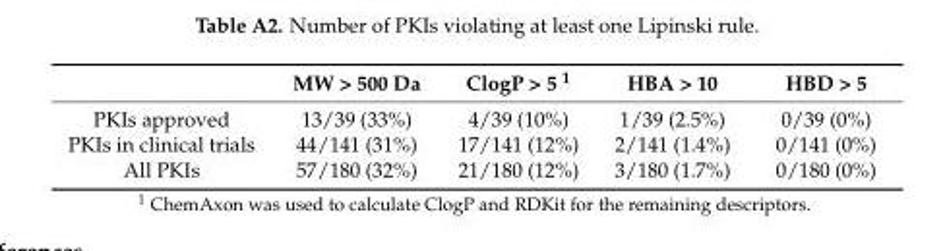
<table><thead><tr><td></td><td>MW &gt; 500 Da</td><td>ClogP &gt; 5 <sup>1</sup></td><td>HBA &gt; 10</td><td>HBD &gt; 5</td></tr></thead><tbody><tr><td>PKIs approved</td><td>13/39 (33%)</td><td>4/39 (10%)</td><td>1/39 (2.5%)</td><td>0/39 (0%)</td></tr><tr><td>PKIs in clinical trials</td><td>44/141 (31%)</td><td>17/141 (12%)</td><td>2/141 (1.4%)</td><td>0/141 (0%)</td></tr><tr><td>All PKIs</td><td>57/180 (32%)</td><td>21/180 (12%)</td><td>3/180 (1.7%)</td><td>0/180 (0%)</td></tr></tbody></table>